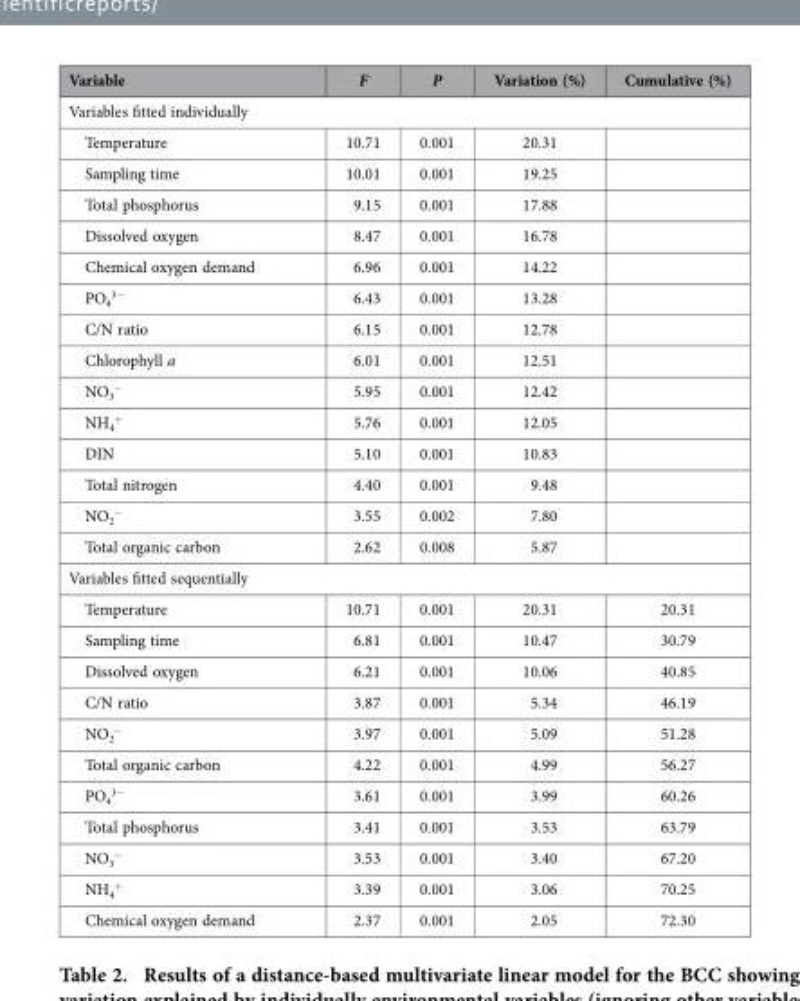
<table><thead><tr><td>Variable</td><td>F</td><td>P</td><td>Variation (%)</td><td>Cumulative (%)</td></tr></thead><tbody><tr><td colspan="5">Variables fitted individually</td></tr><tr><td>Temperature</td><td>10.71</td><td>0.001</td><td>20.31</td><td></td></tr><tr><td>Sampling time</td><td>10.01</td><td>0.001</td><td>19.25</td><td></td></tr><tr><td>Total phosphorus</td><td>9.15</td><td>0.001</td><td>17.88</td><td></td></tr><tr><td>Dissolved oxygen</td><td>8.47</td><td>0.001</td><td>16.78</td><td></td></tr><tr><td>Chemical oxygen demand</td><td>6.96</td><td>0.001</td><td>14.22</td><td></td></tr><tr><td>PO<sub>4</sub> <sup>3−</sup></td><td>6.43</td><td>0.001</td><td>13.28</td><td></td></tr><tr><td>C/N ratio</td><td>6.15</td><td>0.001</td><td>12.78</td><td></td></tr><tr><td>Chlorophyll a</td><td>6.01</td><td>0.001</td><td>12.51</td><td></td></tr><tr><td>NO<sub>3</sub> <sup>−</sup></td><td>5.95</td><td>0.001</td><td>12.42</td><td></td></tr><tr><td>NH<sub>4</sub> <sup>+</sup></td><td>5.76</td><td>0.001</td><td>12.05</td><td></td></tr><tr><td>DIN</td><td>5.10</td><td>0.001</td><td>10.83</td><td></td></tr><tr><td>Total nitrogen</td><td>4.40</td><td>0.001</td><td>9.48</td><td></td></tr><tr><td>NO<sub>2</sub> <sup>−</sup></td><td>3.55</td><td>0.002</td><td>7.80</td><td></td></tr><tr><td>Total organic carbon</td><td>2.62</td><td>0.008</td><td>5.87</td><td></td></tr><tr><td colspan="5">Variables fitted sequentially</td></tr><tr><td>Temperature</td><td>10.71</td><td>0.001</td><td>20.31</td><td>20.31</td></tr><tr><td>Sampling time</td><td>6.81</td><td>0.001</td><td>10.47</td><td>30.79</td></tr><tr><td>Dissolved oxygen</td><td>6.21</td><td>0.001</td><td>10.06</td><td>40.85</td></tr><tr><td>C/N ratio</td><td>3.87</td><td>0.001</td><td>5.34</td><td>46.19</td></tr><tr><td>NO<sub>2</sub> <sup>−</sup></td><td>3.97</td><td>0.001</td><td>5.09</td><td>51.28</td></tr><tr><td>Total organic carbon</td><td>4.22</td><td>0.001</td><td>4.99</td><td>56.27</td></tr><tr><td>PO<sub>4</sub> <sup>3−</sup></td><td>3.61</td><td>0.001</td><td>3.99</td><td>60.26</td></tr><tr><td>Total phosphorus</td><td>3.41</td><td>0.001</td><td>3.53</td><td>63.79</td></tr><tr><td>NO<sub>3</sub> <sup>−</sup></td><td>3.53</td><td>0.001</td><td>3.40</td><td>67.20</td></tr><tr><td>NH<sub>4</sub> <sup>+</sup></td><td>3.39</td><td>0.001</td><td>3.06</td><td>70.25</td></tr><tr><td>Chemical oxygen demand</td><td>2.37</td><td>0.001</td><td>2.05</td><td>72.30</td></tr></tbody></table>